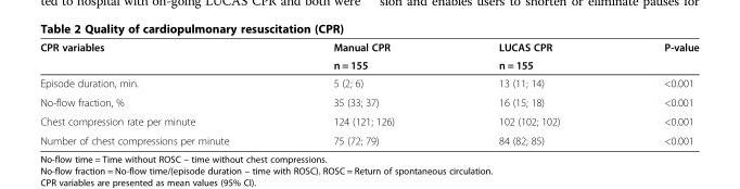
<table><thead><tr><td rowspan="2">CPR variables</td><td rowspan="2">Manual CPR n = 155</td><td rowspan="2">LUCAS CPR n = 155</td><td rowspan="2">P-value</td></tr><tr></tr></thead><tbody><tr><td>Episode duration, min.</td><td>5 (2; 6)</td><td>13 (11; 14)</td><td>&lt;0.001</td></tr><tr><td>No-flow fraction, %</td><td>35 (33; 37)</td><td>16 (15; 18)</td><td>&lt;0.001</td></tr><tr><td>Chest compression rate per minute</td><td>124 (121; 126)</td><td>102 (102; 102)</td><td>&lt;0.001</td></tr><tr><td>Number of chest compressions per minute</td><td>75 (72; 79)</td><td>84 (82; 85)</td><td>&lt;0.001</td></tr></tbody></table>